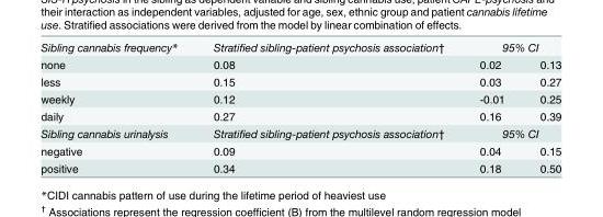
<table><tbody><tr><td>Sibling cannabis frequency*</td><td>Stratified sibling-patient psychosis association†</td><td colspan="2">95% CI</td></tr><tr><td>none</td><td>0.08</td><td>0.02</td><td>0.13</td></tr><tr><td>less</td><td>0.15</td><td>0.03</td><td>0.27</td></tr><tr><td>weekly</td><td>0.12</td><td>-0.01</td><td>0.25</td></tr><tr><td>daily</td><td>0.27</td><td>0.16</td><td>0.39</td></tr><tr><td>Sibling cannabis urinalysis</td><td>Stratified sibling-patient psychosis association†</td><td colspan="2">95% CI</td></tr><tr><td>negative</td><td>0.09</td><td>0.04</td><td>0.15</td></tr><tr><td>positive</td><td>0.34</td><td>0.18</td><td>0.50</td></tr></tbody></table>